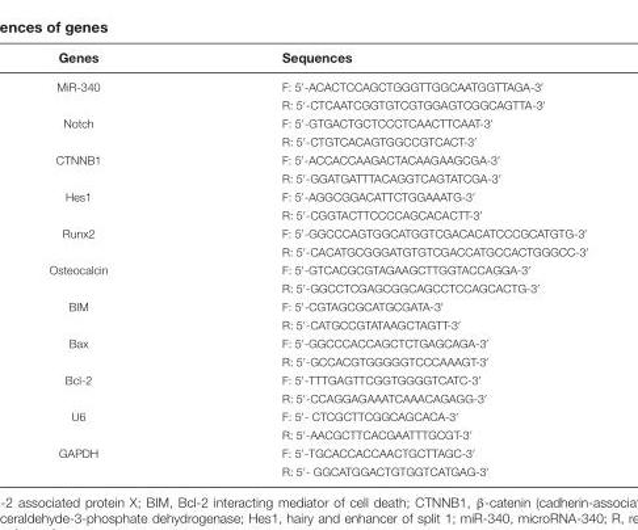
<table><thead><tr><td>Genes</td><td>Sequences</td></tr></thead><tbody><tr><td rowspan="2">MiR-340</td><td>F: 5′-ACACTCCAGCTGGGTTGGCAATGGTTAGA-3′</td></tr><tr><td>R: 5′-CTCAATCGGTGTCGTGGAGTCGGCAGTTA-3′</td></tr><tr><td rowspan="2">Notch</td><td>F: 5′-GTGACTGCTCCCTCAACTTCAAT-3′</td></tr><tr><td>R: 5′-CTGTCACAGTGGCCGTCACT-3′</td></tr><tr><td rowspan="2">CTNNB1</td><td>F: 5′-ACCACCAAGACTACAAGAAGCGA-3′</td></tr><tr><td>R: 5′-GGATGATTTACAGGTCAGTATCGA-3′</td></tr><tr><td rowspan="2">Hes1</td><td>F: 5′-AGGCGGACATTCTGGAAATG-3′</td></tr><tr><td>R: 5′-CGGTACTTCCCCAGCACACTT-3′</td></tr><tr><td rowspan="2">Runx2</td><td>F: 5′-GGCCCAGTGGCATGGTCGACACATCCCGCATGTG-3′</td></tr><tr><td>R: 5′-CACATGCGGGATGTGTCGACCATGCCACTGGGCC-3′</td></tr><tr><td rowspan="2">Osteocalcin</td><td>F: 5′-GTCACGCGTAGAAGCTTGGTACCAGGA-3′</td></tr><tr><td>R: 5′-GGCCTCGAGCGGCAGCCTCCAGCACTG-3′</td></tr><tr><td rowspan="2">BIM</td><td>F: 5′-CGTAGCGCATGCGATA-3′</td></tr><tr><td>R: 5′-CATGCCGTATAAGCTAGTT-3′</td></tr><tr><td rowspan="2">Bax</td><td>F: 5′-GGCCCACCAGCTCTGAGCAGA-3′</td></tr><tr><td>R: 5′-GCCACGTGGGGGTCCCAAAGT-3′</td></tr><tr><td rowspan="2">Bcl-2</td><td>F: 5′-TTTGAGTTCGGTGGGGTCATC-3′</td></tr><tr><td>R: 5′-CCAGGAGAAATCAAACAGAGG-3′</td></tr><tr><td rowspan="2">U6</td><td>F: 5′- CTCGCTTCGGCAGCACA-3′</td></tr><tr><td>R: 5′-AACGCTTCACGAATTTGCGT-3′</td></tr><tr><td rowspan="2">GAPDH</td><td>F: 5′-TGCACCACCAACTGCTTAGC-3′</td></tr><tr><td>R: 5′- GGCATGGACTGTGGTCATGAG-3′</td></tr></tbody></table>